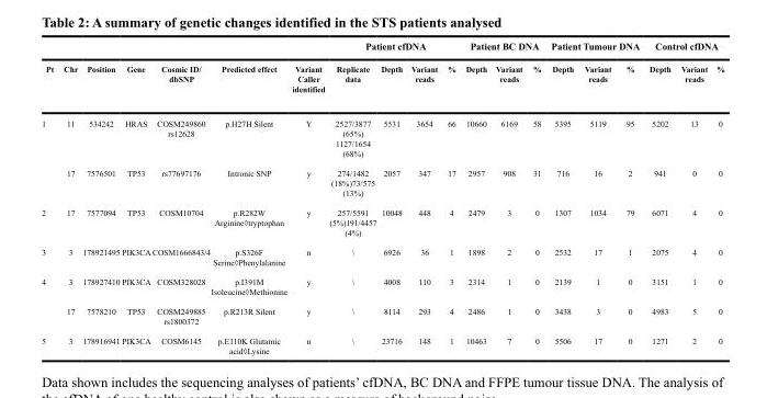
<table><thead><tr><td rowspan="2">Pt</td><td rowspan="2">Chr</td><td rowspan="2">Position</td><td rowspan="2">Gene</td><td rowspan="2">Cosmic ID/ dbSNP</td><td rowspan="2">Predicted effect</td><td rowspan="2">Variant Caller identified</td><td colspan="4">Patient cfDNA</td><td colspan="3">Patient BC DNA</td><td colspan="3">Patient Tumour DNA</td><td colspan="3">Control cfDNA</td></tr><tr><td>Replicate data</td><td>Depth</td><td>Variant reads</td><td>%</td><td>Depth</td><td>Variant reads</td><td>%</td><td>Depth</td><td>Variant reads</td><td>%</td><td>Depth</td><td>Variant reads</td><td>%</td></tr></thead><tbody><tr><td rowspan="2">1</td><td>11</td><td>534242</td><td>HRAS</td><td>COSM249860 rs12628</td><td>p.H27H Silent</td><td>Y</td><td>2527/3877 (65%) 1127/1654 (68%)</td><td>5531</td><td>3654</td><td>66</td><td>10660</td><td>6169</td><td>58</td><td>5395</td><td>5119</td><td>95</td><td>5202</td><td>13</td><td>0</td></tr><tr><td>17</td><td>7576501</td><td>TP53</td><td>rs77697176</td><td>Intronic SNP</td><td>y</td><td>274/1482 (18%)73/575 (13%)</td><td>2057</td><td>347</td><td>17</td><td>2957</td><td>908</td><td>31</td><td>716</td><td>16</td><td>2</td><td>941</td><td>0</td><td>0</td></tr><tr><td>2</td><td>17</td><td>7577094</td><td>TP53</td><td>COSM10704</td><td>p.R282W Arginine◊tryptophan</td><td>y</td><td>257/5591 (5%)191/4457 (4%)</td><td>10048</td><td>448</td><td>4</td><td>2479</td><td>3</td><td>0</td><td>1307</td><td>1034</td><td>79</td><td>6071</td><td>4</td><td>0</td></tr><tr><td>3</td><td>3</td><td>178921495</td><td>PIK3CA</td><td>COSM1666843/4</td><td>p.S326F Serine◊Phenylalanine</td><td>n</td><td>\</td><td>6926</td><td>36</td><td>1</td><td>1898</td><td>2</td><td>0</td><td>2532</td><td>17</td><td>1</td><td>2075</td><td>4</td><td>0</td></tr><tr><td rowspan="2">4</td><td>3</td><td>178927410</td><td>PIK3CA</td><td>COSM328028</td><td>p.I391M Isoleucine◊Methionine</td><td>y</td><td>\</td><td>4008</td><td>110</td><td>3</td><td>2314</td><td>1</td><td>0</td><td>2139</td><td>1</td><td>0</td><td>3151</td><td>1</td><td>0</td></tr><tr><td>17</td><td>7578210</td><td>TP53</td><td>COSM249885 rs1800372</td><td>p.R213R Silent</td><td>y</td><td>\</td><td>8114</td><td>293</td><td>4</td><td>2486</td><td>1</td><td>0</td><td>3438</td><td>3</td><td>0</td><td>4983</td><td>5</td><td>0</td></tr><tr><td>5</td><td>3</td><td>178916941</td><td>PIK3CA</td><td>COSM6145</td><td>p.E110K Glutamic acid◊Lysine</td><td>n</td><td>\</td><td>23716</td><td>148</td><td>1</td><td>10463</td><td>7</td><td>0</td><td>5506</td><td>17</td><td>0</td><td>1271</td><td>2</td><td>0</td></tr></tbody></table>